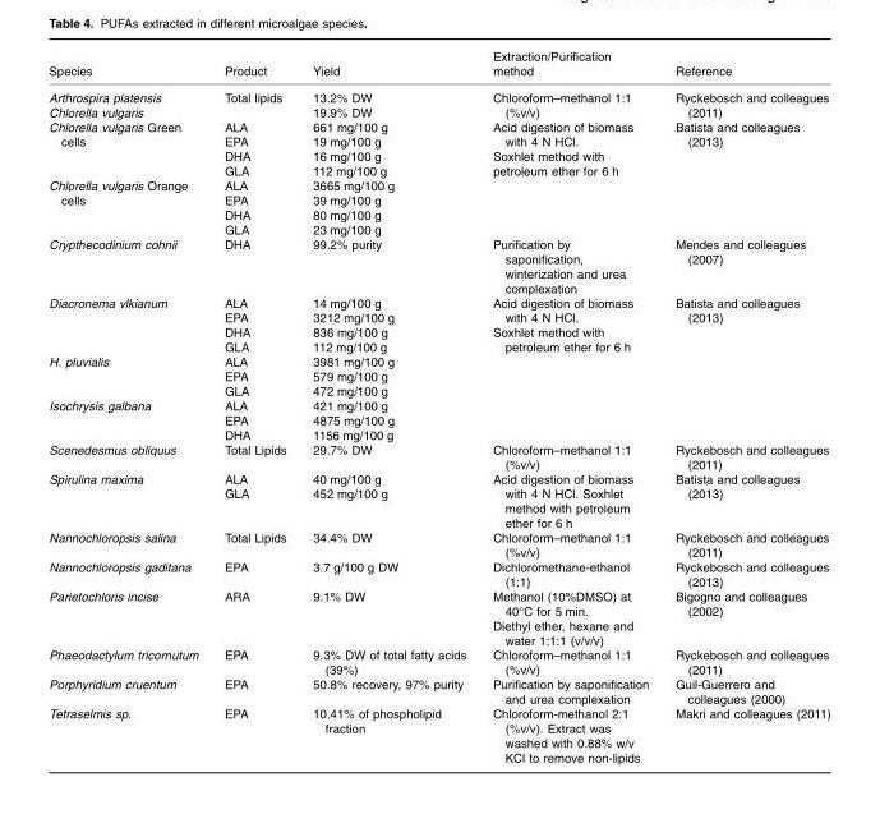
<table><thead><tr><td>Species</td><td>Product</td><td>Yield</td><td>Extraction/Purification method</td><td>Reference</td></tr></thead><tbody><tr><td>Arthrospira platensis</td><td rowspan="2">Total lipids</td><td>13.2% DW</td><td rowspan="2">Chloroform–methanol 1:1 (%v/v)</td><td rowspan="2">Ryckebosch and colleagues (2011)</td></tr><tr><td>Chlorella vulgaris</td><td>19.9% DW</td></tr><tr><td rowspan="4">Chlorella vulgaris Green cells</td><td>ALA</td><td>661 mg/100 g</td><td rowspan="2">Acid digestion of biomass with 4 N HCl.</td><td rowspan="8">Batista and colleagues (2013)</td></tr><tr><td>EPA</td><td>19 mg/100 g</td></tr><tr><td>DHA</td><td>16 mg/100 g</td><td rowspan="6">Soxhlet method with petroleum ether for 6 h</td></tr><tr><td>GLA</td><td>112 mg/100 g</td></tr><tr><td rowspan="4">Chlorella vulgaris Orange cells</td><td>ALA</td><td>3665 mg/100 g</td></tr><tr><td>EPA</td><td>39 mg/100 g</td></tr><tr><td>DHA</td><td>80 mg/100 g</td></tr><tr><td>GLA</td><td>23 mg/100 g</td></tr><tr><td>Crypthecodinium cohnii</td><td>DHA</td><td>99.2% purity</td><td>Purification by saponification, winterization and urea complexation</td><td>Mendes and colleagues (2007)</td></tr><tr><td rowspan="4">Diacronema vlkianum</td><td>ALA</td><td>14 mg/100 g</td><td rowspan="2">Acid digestion of biomass with 4 N HCl.</td><td rowspan="10">Batista and colleagues (2013)</td></tr><tr><td>EPA</td><td>3212 mg/100 g</td></tr><tr><td>DHA</td><td>836 mg/100 g</td><td rowspan="8">Soxhlet method with petroleum ether for 6 h</td></tr><tr><td>GLA</td><td>112 mg/100 g</td></tr><tr><td rowspan="3">H. pluvialis</td><td>ALA</td><td>3981 mg/100 g</td></tr><tr><td>EPA</td><td>579 mg/100 g</td></tr><tr><td>GLA</td><td>472 mg/100 g</td></tr><tr><td rowspan="3">Isochrysis galbana</td><td>ALA</td><td>421 mg/100 g</td></tr><tr><td>EPA</td><td>4875 mg/100 g</td></tr><tr><td>DHA</td><td>1156 mg/100 g</td></tr><tr><td>Scenedesmus obliquus</td><td>Total Lipids</td><td>29.7% DW</td><td>Chloroform–methanol 1:1 (%v/v)</td><td>Ryckebosch and colleagues (2011)</td></tr><tr><td rowspan="2">Spirulina maxima</td><td>ALA</td><td>40 mg/100 g</td><td rowspan="2">Acid digestion of biomass with 4 N HCl. Soxhlet method with petroleum ether for 6 h</td><td rowspan="2">Batista and colleagues (2013)</td></tr><tr><td>GLA</td><td>452 mg/100 g</td></tr><tr><td>Nannochloropsis salina</td><td>Total Lipids</td><td>34.4% DW</td><td>Chloroform–methanol 1:1 (%v/v)</td><td>Ryckebosch and colleagues (2011)</td></tr><tr><td>Nannochloropsis gaditana</td><td>EPA</td><td>3.7 g/100 g DW</td><td>Dichloromethane-ethanol (1:1)</td><td>Ryckebosch and colleagues (2013)</td></tr><tr><td rowspan="2">Parietochloris incise</td><td>ARA</td><td>9.1% DW</td><td>Methanol (10%DMSO) at 40°C for 5 min.</td><td>Bigogno and colleagues (2002)</td></tr><tr><td></td><td></td><td>Diethyl ether, hexane and water 1:1:1 (v/v/v)</td><td></td></tr><tr><td>Phaeodactylum tricornutum</td><td>EPA</td><td>9.3% DW of total fatty acids (39%)</td><td>Chloroform–methanol 1:1 (%v/v)</td><td>Ryckebosch and colleagues (2011)</td></tr><tr><td>Porphyridium cruentum</td><td>EPA</td><td>50.8% recovery, 97% purity</td><td>Purification by saponification and urea complexation</td><td>Guil-Guerrero and colleagues (2000)</td></tr><tr><td>Tetraselmis sp.</td><td>EPA</td><td>10.41% of phospholipid fraction</td><td>Chloroform-methanol 2:1 (%v/v). Extract was washed with 0.88% w/v KCl to remove non-lipids</td><td>Makri and colleagues (2011)</td></tr></tbody></table>